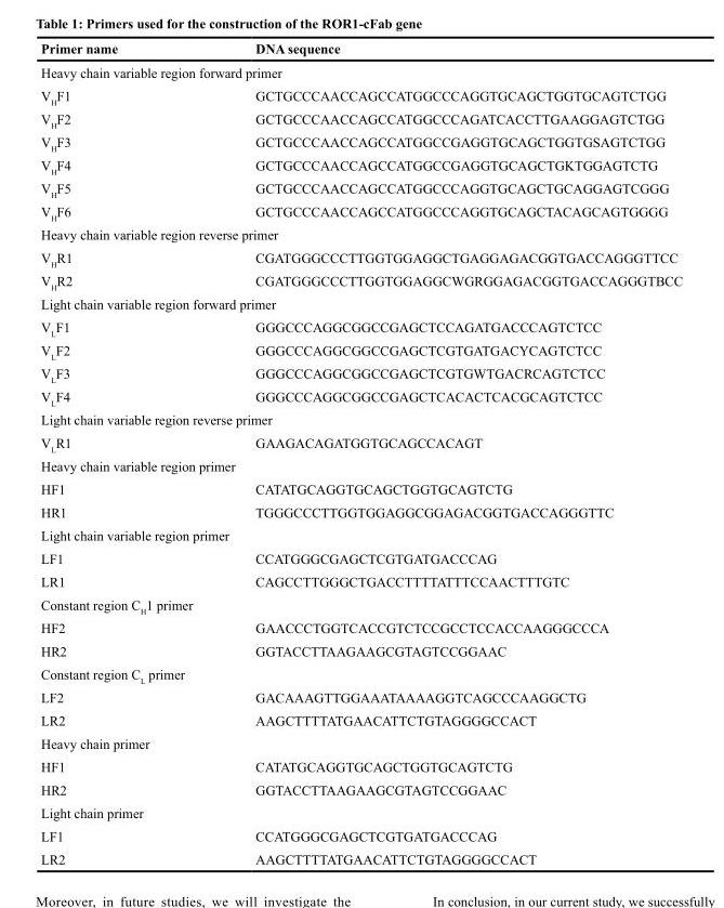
<table><thead><tr><td>Primer name</td><td>DNA sequence</td></tr></thead><tbody><tr><td colspan="2">Heavy chain variable region forward primer</td></tr><tr><td>V<sub>H</sub>F1</td><td>GCTGCCCAACCAGCCATGGCCCAGGTGCAGCTGGTGCAGTCTGG</td></tr><tr><td>V<sub>H</sub>F2</td><td>GCTGCCCAACCAGCCATGGCCCAGATCACCTTGAAGGAGTCTGG</td></tr><tr><td>V<sub>H</sub>F3</td><td>GCTGCCCAACCAGCCATGGCCGAGGTGCAGCTGGTGSAGTCTGG</td></tr><tr><td>V<sub>H</sub>F4</td><td>GCTGCCCAACCAGCCATGGCCGAGGTGCAGCTGKTGGAGTCTG</td></tr><tr><td>V<sub>H</sub>F5</td><td>GCTGCCCAACCAGCCATGGCCCAGGTGCAGCTGCAGGAGTCGGG</td></tr><tr><td>V<sub>H</sub>F6</td><td>GCTGCCCAACCAGCCATGGCCCAGGTGCAGCTACAGCAGTGGGG</td></tr><tr><td colspan="2">Heavy chain variable region reverse primer</td></tr><tr><td>V<sub>H</sub>R1</td><td>CGATGGGCCCTTGGTGGAGGCTGAGGAGACGGTGACCAGGGTTCC</td></tr><tr><td>V<sub>H</sub>R2</td><td>CGATGGGCCCTTGGTGGAGGCWGRGGAGACGGTGACCAGGGTBCC</td></tr><tr><td colspan="2">Light chain variable region forward primer</td></tr><tr><td>V<sub>L</sub>F1</td><td>GGGCCCAGGCGGCCGAGCTCCAGATGACCCAGTCTCC</td></tr><tr><td>V<sub>L</sub>F2</td><td>GGGCCCAGGCGGCCGAGCTCGTGATGACYCAGTCTCC</td></tr><tr><td>V<sub>L</sub>F3</td><td>GGGCCCAGGCGGCCGAGCTCGTGWTGACRCAGTCTCC</td></tr><tr><td>V<sub>L</sub>F4</td><td>GGGCCCAGGCGGCCGAGCTCACACTCACGCAGTCTCC</td></tr><tr><td colspan="2">Light chain variable region reverse primer</td></tr><tr><td>V<sub>L</sub>R1</td><td>GAAGACAGATGGTGCAGCCACAGT</td></tr><tr><td colspan="2">Heavy chain variable region primer</td></tr><tr><td>HF1</td><td>CATATGCAGGTGCAGCTGGTGCAGTCTG</td></tr><tr><td>HR1</td><td>TGGGCCCTTGGTGGAGGCGGAGACGGTGACCAGGGTTC</td></tr><tr><td colspan="2">Light chain variable region primer</td></tr><tr><td>LF1</td><td>CCATGGGCGAGCTCGTGATGACCCAG</td></tr><tr><td>LR1</td><td>CAGCCTTGGGCTGACCTTTTATTTCCAACTTTGTC</td></tr><tr><td colspan="2">Constant region C<sub>H</sub>1 primer</td></tr><tr><td>HF2</td><td>GAACCCTGGTCACCGTCTCCGCCTCCACCAAGGGCCCA</td></tr><tr><td>HR2</td><td>GGTACCTTAAGAAGCGTAGTCCGGAAC</td></tr><tr><td colspan="2">Constant region C<sub>L</sub> primer</td></tr><tr><td>LF2</td><td>GACAAAGTTGGAAATAAAAGGTCAGCCCAAGGCTG</td></tr><tr><td>LR2</td><td>AAGCTTTTATGAACATTCTGTAGGGGCCACT</td></tr><tr><td colspan="2">Heavy chain primer</td></tr><tr><td>HF1</td><td>CATATGCAGGTGCAGCTGGTGCAGTCTG</td></tr><tr><td>HR2</td><td>GGTACCTTAAGAAGCGTAGTCCGGAAC</td></tr><tr><td colspan="2">Light chain primer</td></tr><tr><td>LF1</td><td>CCATGGGCGAGCTCGTGATGACCCAG</td></tr><tr><td>LR2</td><td>AAGCTTTTATGAACATTCTGTAGGGGCCACT</td></tr></tbody></table>